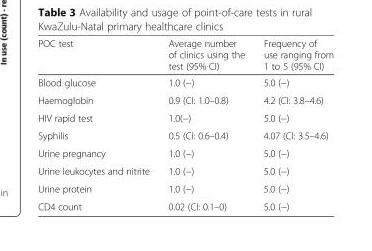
<table><thead><tr><td>POC test</td><td>Average number of clinics using the test (95% CI)</td><td>Frequency of use ranging from 1 to 5 (95% CI)</td></tr></thead><tbody><tr><td>Blood glucose</td><td>1.0 (−)</td><td>5.0 (−)</td></tr><tr><td>Haemoglobin</td><td>0.9 (CI: 1.0–0.8)</td><td>4.2 (CI: 3.8–4.6)</td></tr><tr><td>HIV rapid test</td><td>1.0(−)</td><td>5.0 (−)</td></tr><tr><td>Syphilis</td><td>0.5 (CI: 0.6–0.4)</td><td>4.07 (CI: 3.5–4.6)</td></tr><tr><td>Urine pregnancy</td><td>1.0 (−)</td><td>5.0 (−)</td></tr><tr><td>Urine leukocytes and nitrite</td><td>1.0 (−)</td><td>5.0 (−)</td></tr><tr><td>Urine protein</td><td>1.0 (−)</td><td>5.0 (−)</td></tr><tr><td>CD4 count</td><td>0.02 (CI: 0.1–0)</td><td>5.0 (−)</td></tr></tbody></table>